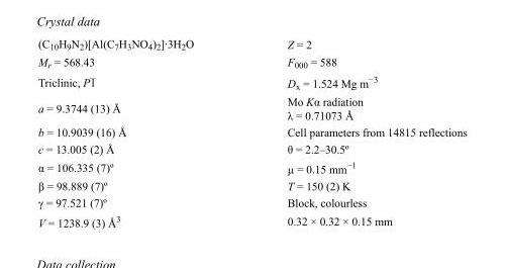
<table><tbody><tr><td>(C<sub>10</sub>H<sub>9</sub>N<sub>2</sub>)[Al(C<sub>7</sub>H<sub>3</sub>NO<sub>4</sub>)<sub>2</sub>]·3H<sub>2</sub>O</td><td>Z = 2</td></tr><tr><td>M<sub>r</sub> = 568.43</td><td>F<sub>000</sub> = 588</td></tr><tr><td>Triclinic, P1</td><td>D<sub>x</sub> = 1.524 Mg m<sup>−3</sup></td></tr><tr><td>a = 9.3744 (13) Å</td><td>Mo Kα radiation λ = 0.71073 Å</td></tr><tr><td>b = 10.9039 (16) Å</td><td>Cell parameters from 14815 reflections</td></tr><tr><td>c = 13.005 (2) Å</td><td>θ = 2.2–30.5º</td></tr><tr><td>α = 106.335 (7)º</td><td>µ = 0.15 mm<sup>−1</sup></td></tr><tr><td>β = 98.889 (7)º</td><td>T = 150 (2) K</td></tr><tr><td>γ = 97.521 (7)º</td><td>Block, colourless</td></tr><tr><td>V = 1238.9 (3) Å<sup>3</sup></td><td>0.32 × 0.32 × 0.15 mm</td></tr></tbody></table>